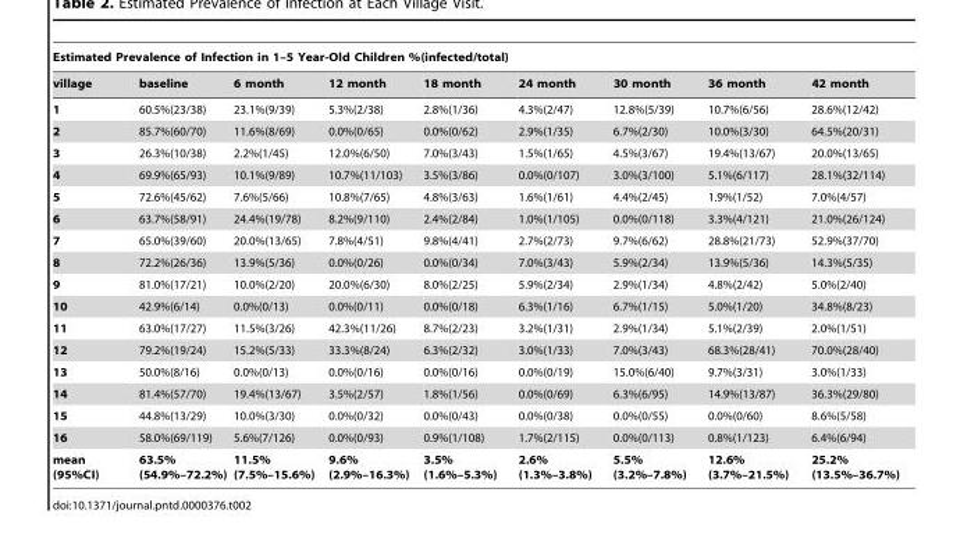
<table><thead><tr><td colspan="9">Estimated Prevalence of Infection in 1–5 Year-Old Children %(infected/total)</td></tr><tr><td>village</td><td>baseline</td><td>6 month</td><td>12 month</td><td>18 month</td><td>24 month</td><td>30 month</td><td>36 month</td><td>42 month</td></tr></thead><tbody><tr><td>1</td><td>60.5%(23/38)</td><td>23.1%(9/39)</td><td>5.3%(2/38)</td><td>2.8%(1/36)</td><td>4.3%(2/47)</td><td>12.8%(5/39)</td><td>10.7%(6/56)</td><td>28.6%(12/42)</td></tr><tr><td>2</td><td>85.7%(60/70)</td><td>11.6%(8/69)</td><td>0.0%(0/65)</td><td>0.0%(0/62)</td><td>2.9%(1/35)</td><td>6.7%(2/30)</td><td>10.0%(3/30)</td><td>64.5%(20/31)</td></tr><tr><td>3</td><td>26.3%(10/38)</td><td>2.2%(1/45)</td><td>12.0%(6/50)</td><td>7.0%(3/43)</td><td>1.5%(1/65)</td><td>4.5%(3/67)</td><td>19.4%(13/67)</td><td>20.0%(13/65)</td></tr><tr><td>4</td><td>69.9%(65/93)</td><td>10.1%(9/89)</td><td>10.7%(11/103)</td><td>3.5%(3/86)</td><td>0.0%(0/107)</td><td>3.0%(3/100)</td><td>5.1%(6/117)</td><td>28.1%(32/114)</td></tr><tr><td>5</td><td>72.6%(45/62)</td><td>7.6%(5/66)</td><td>10.8%(7/65)</td><td>4.8%(3/63)</td><td>1.6%(1/61)</td><td>4.4%(2/45)</td><td>1.9%(1/52)</td><td>7.0%(4/57)</td></tr><tr><td>6</td><td>63.7%(58/91)</td><td>24.4%(19/78)</td><td>8.2%(9/110)</td><td>2.4%(2/84)</td><td>1.0%(1/105)</td><td>0.0%(0/118)</td><td>3.3%(4/121)</td><td>21.0%(26/124)</td></tr><tr><td>7</td><td>65.0%(39/60)</td><td>20.0%(13/65)</td><td>7.8%(4/51)</td><td>9.8%(4/41)</td><td>2.7%(2/73)</td><td>9.7%(6/62)</td><td>28.8%(21/73)</td><td>52.9%(37/70)</td></tr><tr><td>8</td><td>72.2%(26/36)</td><td>13.9%(5/36)</td><td>0.0%(0/26)</td><td>0.0%(0/34)</td><td>7.0%(3/43)</td><td>5.9%(2/34)</td><td>13.9%(5/36)</td><td>14.3%(5/35)</td></tr><tr><td>9</td><td>81.0%(17/21)</td><td>10.0%(2/20)</td><td>20.0%(6/30)</td><td>8.0%(2/25)</td><td>5.9%(2/34)</td><td>2.9%(1/34)</td><td>4.8%(2/42)</td><td>5.0%(2/40)</td></tr><tr><td>10</td><td>42.9%(6/14)</td><td>0.0%(0/13)</td><td>0.0%(0/11)</td><td>0.0%(0/18)</td><td>6.3%(1/16)</td><td>6.7%(1/15)</td><td>5.0%(1/20)</td><td>34.8%(8/23)</td></tr><tr><td>11</td><td>63.0%(17/27)</td><td>11.5%(3/26)</td><td>42.3%(11/26)</td><td>8.7%(2/23)</td><td>3.2%(1/31)</td><td>2.9%(1/34)</td><td>5.1%(2/39)</td><td>2.0%(1/51)</td></tr><tr><td>12</td><td>79.2%(19/24)</td><td>15.2%(5/33)</td><td>33.3%(8/24)</td><td>6.3%(2/32)</td><td>3.0%(1/33)</td><td>7.0%(3/43)</td><td>68.3%(28/41)</td><td>70.0%(28/40)</td></tr><tr><td>13</td><td>50.0%(8/16)</td><td>0.0%(0/13)</td><td>0.0%(0/16)</td><td>0.0%(0/16)</td><td>0.0%(0/19)</td><td>15.0%(6/40)</td><td>9.7%(3/31)</td><td>3.0%(1/33)</td></tr><tr><td>14</td><td>81.4%(57/70)</td><td>19.4%(13/67)</td><td>3.5%(2/57)</td><td>1.8%(1/56)</td><td>0.0%(0/69)</td><td>6.3%(6/95)</td><td>14.9%(13/87)</td><td>36.3%(29/80)</td></tr><tr><td>15</td><td>44.8%(13/29)</td><td>10.0%(3/30)</td><td>0.0%(0/32)</td><td>0.0%(0/43)</td><td>0.0%(0/38)</td><td>0.0%(0/55)</td><td>0.0%(0/60)</td><td>8.6%(5/58)</td></tr><tr><td>16</td><td>58.0%(69/119)</td><td>5.6%(7/126)</td><td>0.0%(0/93)</td><td>0.9%(1/108)</td><td>1.7%(2/115)</td><td>0.0%(0/113)</td><td>0.8%(1/123)</td><td>6.4%(6/94)</td></tr><tr><td>mean (95%CI)</td><td>63.5% (54.9%–72.2%)</td><td>11.5% (7.5%–15.6%)</td><td>9.6% (2.9%–16.3%)</td><td>3.5% (1.6%–5.3%)</td><td>2.6% (1.3%–3.8%)</td><td>5.5% (3.2%–7.8%)</td><td>12.6% (3.7%–21.5%)</td><td>25.2% (13.5%–36.7%)</td></tr></tbody></table>